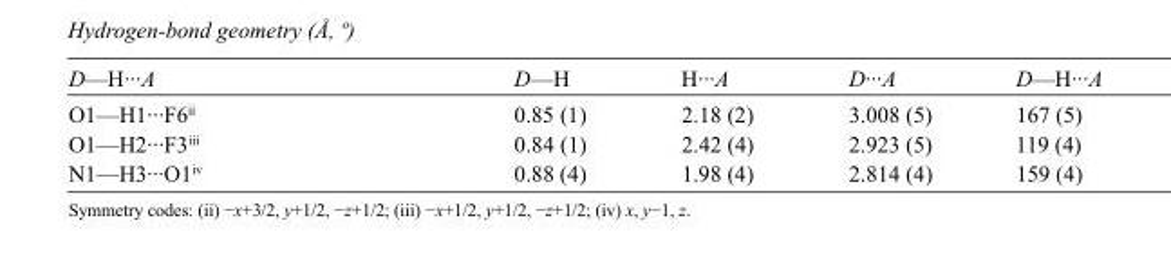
<table><tbody><tr><td>D—H···A</td><td>D—H</td><td>H···A</td><td>D···A</td><td>D—H···A</td></tr><tr><td>O1—H1···F6<sup>ii</sup></td><td>0.85 (1)</td><td>2.18 (2)</td><td>3.008 (5)</td><td>167 (5)</td></tr><tr><td>O1—H2···F3<sup>iii</sup></td><td>0.84 (1)</td><td>2.42 (4)</td><td>2.923 (5)</td><td>119 (4)</td></tr><tr><td>N1—H3···O1<sup>iv</sup></td><td>0.88 (4)</td><td>1.98 (4)</td><td>2.814 (4)</td><td>159 (4)</td></tr></tbody></table>